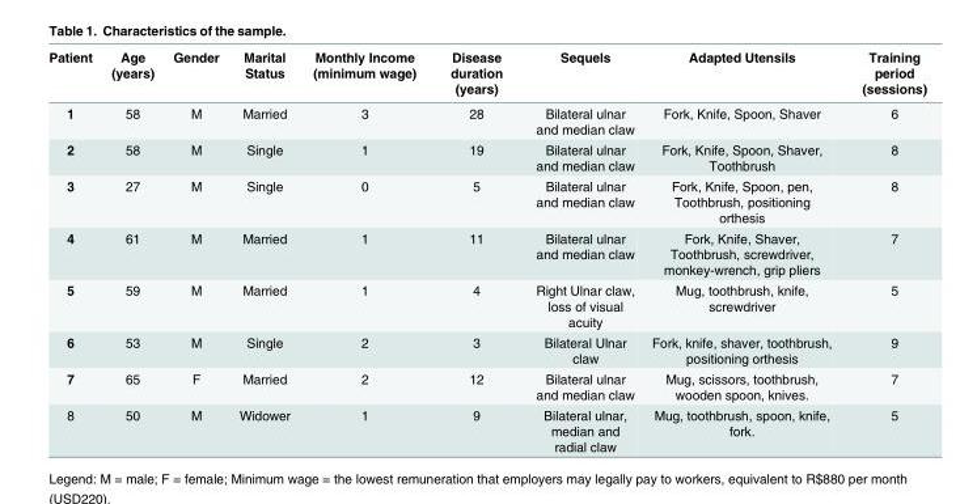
<table><thead><tr><td>Patient</td><td>Age (years)</td><td>Gender</td><td>Marital Status</td><td>Monthly Income (minimum wage)</td><td>Disease duration (years)</td><td>Sequels</td><td>Adapted Utensils</td><td>Training period (sessions)</td></tr></thead><tbody><tr><td>1</td><td>58</td><td>M</td><td>Married</td><td>3</td><td>28</td><td>Bilateral ulnar and median claw</td><td>Fork, Knife, Spoon, Shaver</td><td>6</td></tr><tr><td>2</td><td>58</td><td>M</td><td>Single</td><td>1</td><td>19</td><td>Bilateral ulnar and median claw</td><td>Fork, Knife, Spoon, Shaver, Toothbrush</td><td>8</td></tr><tr><td>3</td><td>27</td><td>M</td><td>Single</td><td>0</td><td>5</td><td>Bilateral ulnar and median claw</td><td>Fork, Knife, Spoon, pen, Toothbrush, positioning orthesis</td><td>8</td></tr><tr><td>4</td><td>61</td><td>M</td><td>Married</td><td>1</td><td>11</td><td>Bilateral ulnar and median claw</td><td>Fork, Knife, Shaver, Toothbrush, screwdriver, monkey-wrench, grip pliers</td><td>7</td></tr><tr><td>5</td><td>59</td><td>M</td><td>Married</td><td>1</td><td>4</td><td>Right Ulnar claw, loss of visual acuity</td><td>Mug, toothbrush, knife, screwdriver</td><td>5</td></tr><tr><td>6</td><td>53</td><td>M</td><td>Single</td><td>2</td><td>3</td><td>Bilateral Ulnar claw</td><td>Fork, knife, shaver, toothbrush, positioning orthesis</td><td>9</td></tr><tr><td>7</td><td>65</td><td>F</td><td>Married</td><td>2</td><td>12</td><td>Bilateral ulnar and median claw</td><td>Mug, scissors, toothbrush, wooden spoon, knives.</td><td>7</td></tr><tr><td>8</td><td>50</td><td>M</td><td>Widower</td><td>1</td><td>9</td><td>Bilateral ulnar, median and radial claw</td><td>Mug, toothbrush, spoon, knife, fork.</td><td>5</td></tr></tbody></table>